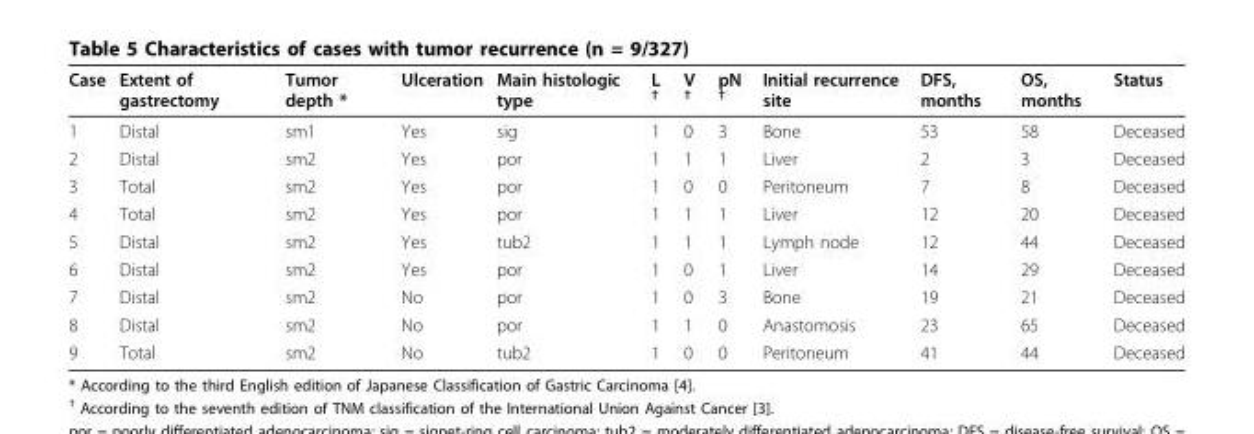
<table><thead><tr><td>Case</td><td>Extent of gastrectomy</td><td>Tumor depth *</td><td>Ulceration</td><td>Main histologic type</td><td>L <sup>†</sup></td><td>V <sup>†</sup></td><td>pN <sup>†</sup></td><td>Initial recurrence site</td><td>DFS, months</td><td>OS, months</td><td>Status</td></tr></thead><tbody><tr><td>1</td><td>Distal</td><td>sm1</td><td>Yes</td><td>sig</td><td>1</td><td>0</td><td>3</td><td>Bone</td><td>53</td><td>58</td><td>Deceased</td></tr><tr><td>2</td><td>Distal</td><td>sm2</td><td>Yes</td><td>por</td><td>1</td><td>1</td><td>1</td><td>Liver</td><td>2</td><td>3</td><td>Deceased</td></tr><tr><td>3</td><td>Total</td><td>sm2</td><td>Yes</td><td>por</td><td>1</td><td>0</td><td>0</td><td>Peritoneum</td><td>7</td><td>8</td><td>Deceased</td></tr><tr><td>4</td><td>Total</td><td>sm2</td><td>Yes</td><td>por</td><td>1</td><td>1</td><td>1</td><td>Liver</td><td>12</td><td>20</td><td>Deceased</td></tr><tr><td>5</td><td>Distal</td><td>sm2</td><td>Yes</td><td>tub2</td><td>1</td><td>1</td><td>1</td><td>Lymph node</td><td>12</td><td>44</td><td>Deceased</td></tr><tr><td>6</td><td>Distal</td><td>sm2</td><td>Yes</td><td>por</td><td>1</td><td>0</td><td>1</td><td>Liver</td><td>14</td><td>29</td><td>Deceased</td></tr><tr><td>7</td><td>Distal</td><td>sm2</td><td>No</td><td>por</td><td>1</td><td>0</td><td>3</td><td>Bone</td><td>19</td><td>21</td><td>Deceased</td></tr><tr><td>8</td><td>Distal</td><td>sm2</td><td>No</td><td>por</td><td>1</td><td>1</td><td>0</td><td>Anastomosis</td><td>23</td><td>65</td><td>Deceased</td></tr><tr><td>9</td><td>Total</td><td>sm2</td><td>No</td><td>tub2</td><td>1</td><td>0</td><td>0</td><td>Peritoneum</td><td>41</td><td>44</td><td>Deceased</td></tr></tbody></table>